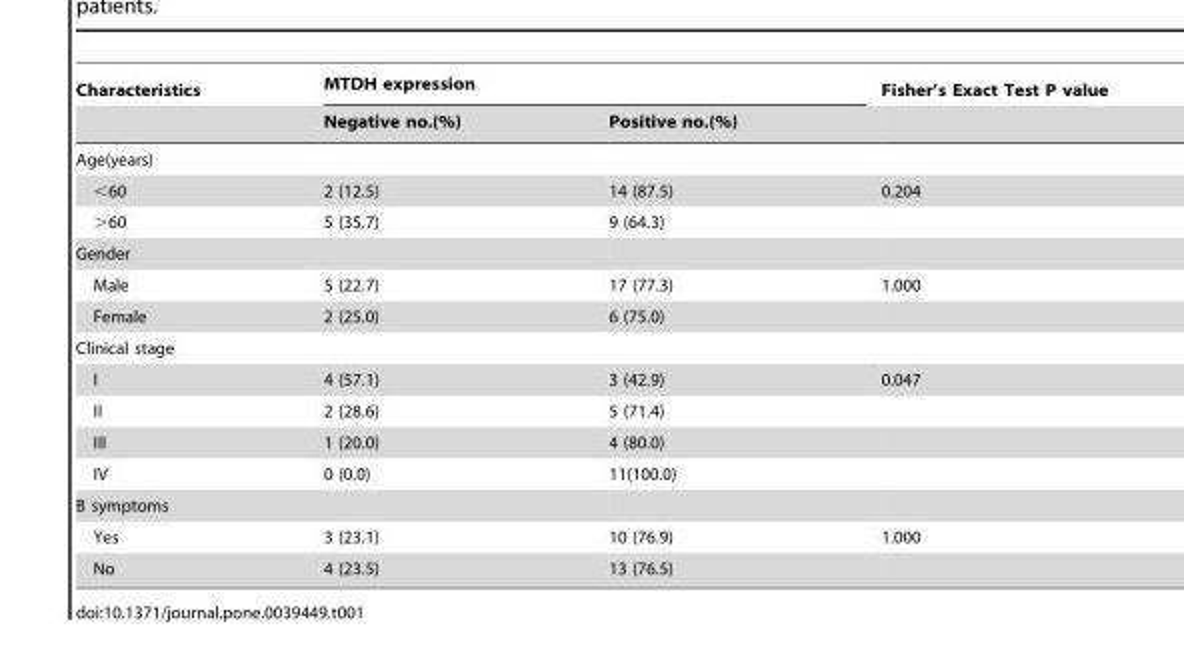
<table><thead><tr><td rowspan="2">Characteristics</td><td colspan="2">MTDH expression</td><td rowspan="2">Fisher’s Exact Test P value</td></tr><tr><td>Negative no.(%)</td><td>Positive no.(%)</td></tr></thead><tbody><tr><td colspan="4">Age(years)</td></tr><tr><td>&lt;60</td><td>2 (12.5)</td><td>14 (87.5)</td><td>0.204</td></tr><tr><td>&gt;60</td><td>5 (35.7)</td><td>9 (64.3)</td><td></td></tr><tr><td colspan="4">Gender</td></tr><tr><td>Male</td><td>5 (22.7)</td><td>17 (77.3)</td><td>1.000</td></tr><tr><td>Female</td><td>2 (25.0)</td><td>6 (75.0)</td><td></td></tr><tr><td colspan="4">Clinical stage</td></tr><tr><td>I</td><td>4 (57.1)</td><td>3 (42.9)</td><td>0.047</td></tr><tr><td>II</td><td>2 (28.6)</td><td>5 (71.4)</td><td></td></tr><tr><td>III</td><td>1 (20.0)</td><td>4 (80.0)</td><td></td></tr><tr><td>IV</td><td>0 (0.0)</td><td>11(100.0)</td><td></td></tr><tr><td colspan="4">B symptoms</td></tr><tr><td>Yes</td><td>3 (23.1)</td><td>10 (76.9)</td><td>1.000</td></tr><tr><td>No</td><td>4 (23.5)</td><td>13 (76.5)</td><td></td></tr></tbody></table>